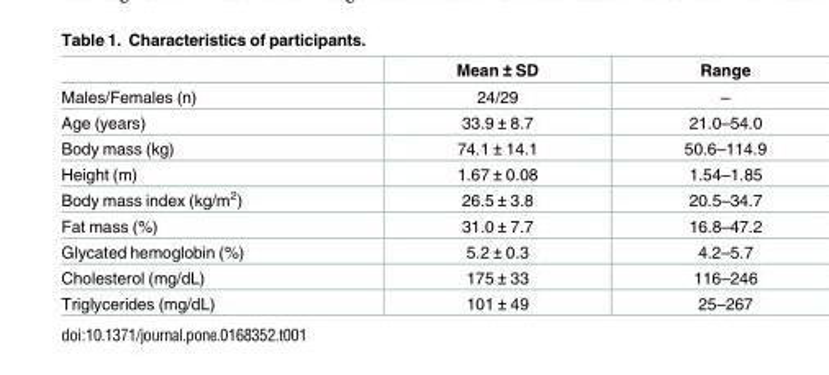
<table><thead><tr><td></td><td>Mean ± SD</td><td>Range</td></tr></thead><tbody><tr><td>Males/Females (n)</td><td>24/29</td><td>–</td></tr><tr><td>Age (years)</td><td>33.9 ± 8.7</td><td>21.0–54.0</td></tr><tr><td>Body mass (kg)</td><td>74.1 ± 14.1</td><td>50.6–114.9</td></tr><tr><td>Height (m)</td><td>1.67 ± 0.08</td><td>1.54–1.85</td></tr><tr><td>Body mass index (kg/m<sup>2</sup>)</td><td>26.5 ± 3.8</td><td>20.5–34.7</td></tr><tr><td>Fat mass (%)</td><td>31.0 ± 7.7</td><td>16.8–47.2</td></tr><tr><td>Glycated hemoglobin (%)</td><td>5.2 ± 0.3</td><td>4.2–5.7</td></tr><tr><td>Cholesterol (mg/dL)</td><td>175 ± 33</td><td>116–246</td></tr><tr><td>Triglycerides (mg/dL)</td><td>101 ± 49</td><td>25–267</td></tr></tbody></table>